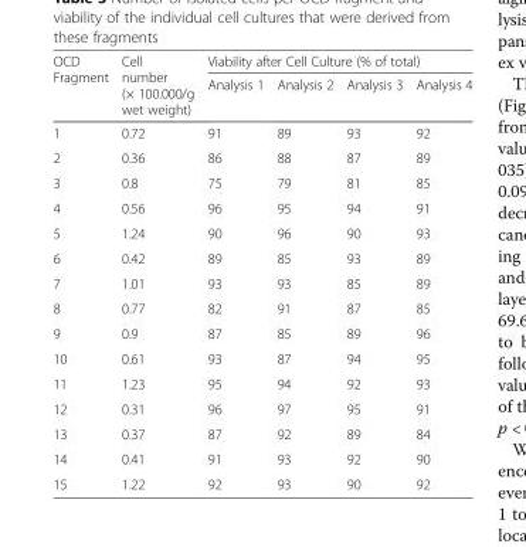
<table><thead><tr><td rowspan="2">OCD Fragment</td><td rowspan="2">Cell number (× 100.000/g wet weight)</td><td colspan="4">Viability after Cell Culture (% of total)</td></tr><tr><td>Analysis 1</td><td>Analysis 2</td><td>Analysis 3</td><td>Analysis 4</td></tr></thead><tbody><tr><td>1</td><td>0.72</td><td>91</td><td>89</td><td>93</td><td>92</td></tr><tr><td>2</td><td>0.36</td><td>86</td><td>88</td><td>87</td><td>89</td></tr><tr><td>3</td><td>0.8</td><td>75</td><td>79</td><td>81</td><td>85</td></tr><tr><td>4</td><td>0.56</td><td>96</td><td>95</td><td>94</td><td>91</td></tr><tr><td>5</td><td>1.24</td><td>90</td><td>96</td><td>90</td><td>93</td></tr><tr><td>6</td><td>0.42</td><td>89</td><td>85</td><td>93</td><td>89</td></tr><tr><td>7</td><td>1.01</td><td>93</td><td>93</td><td>85</td><td>89</td></tr><tr><td>8</td><td>0.77</td><td>82</td><td>91</td><td>87</td><td>85</td></tr><tr><td>9</td><td>0.9</td><td>87</td><td>85</td><td>89</td><td>96</td></tr><tr><td>10</td><td>0.61</td><td>93</td><td>87</td><td>94</td><td>95</td></tr><tr><td>11</td><td>1.23</td><td>95</td><td>94</td><td>92</td><td>93</td></tr><tr><td>12</td><td>0.31</td><td>96</td><td>97</td><td>95</td><td>91</td></tr><tr><td>13</td><td>0.37</td><td>87</td><td>92</td><td>89</td><td>84</td></tr><tr><td>14</td><td>0.41</td><td>91</td><td>93</td><td>92</td><td>90</td></tr><tr><td>15</td><td>1.22</td><td>92</td><td>93</td><td>90</td><td>92</td></tr></tbody></table>